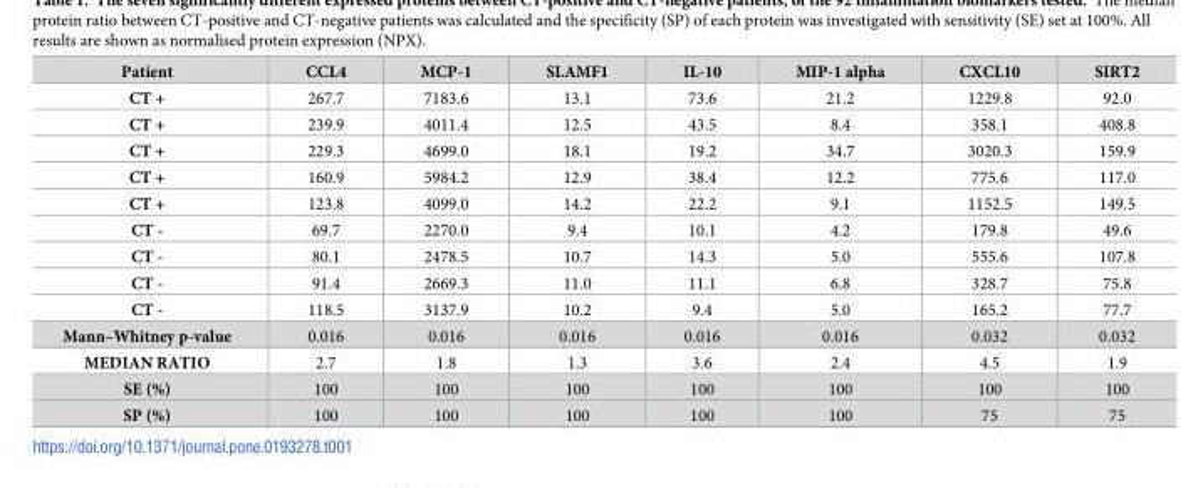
<table><thead><tr><td>Patient</td><td>CCL4</td><td>MCP-1</td><td>SLAMF1</td><td>IL-10</td><td>MIP-1 alpha</td><td>CXCL10</td><td>SIRT2</td></tr></thead><tbody><tr><td>CT +</td><td>267.7</td><td>7183.6</td><td>13.1</td><td>73.6</td><td>21.2</td><td>1229.8</td><td>92.0</td></tr><tr><td>CT +</td><td>239.9</td><td>4011.4</td><td>12.5</td><td>43.5</td><td>8.4</td><td>358.1</td><td>408.8</td></tr><tr><td>CT +</td><td>229.3</td><td>4699.0</td><td>18.1</td><td>19.2</td><td>34.7</td><td>3020.3</td><td>159.9</td></tr><tr><td>CT +</td><td>160.9</td><td>5984.2</td><td>12.9</td><td>38.4</td><td>12.2</td><td>775.6</td><td>117.0</td></tr><tr><td>CT +</td><td>123.8</td><td>4099.0</td><td>14.2</td><td>22.2</td><td>9.1</td><td>1152.5</td><td>149.5</td></tr><tr><td>CT -</td><td>69.7</td><td>2270.0</td><td>9.4</td><td>10.1</td><td>4.2</td><td>179.8</td><td>49.6</td></tr><tr><td>CT -</td><td>80.1</td><td>2478.5</td><td>10.7</td><td>14.3</td><td>5.0</td><td>555.6</td><td>107.8</td></tr><tr><td>CT -</td><td>91.4</td><td>2669.3</td><td>11.0</td><td>11.1</td><td>6.8</td><td>328.7</td><td>75.8</td></tr><tr><td>CT -</td><td>118.5</td><td>3137.9</td><td>10.2</td><td>9.4</td><td>5.0</td><td>165.2</td><td>77.7</td></tr><tr><td>Mann–Whitney p-value</td><td>0.016</td><td>0.016</td><td>0.016</td><td>0.016</td><td>0.016</td><td>0.032</td><td>0.032</td></tr><tr><td>MEDIAN RATIO</td><td>2.7</td><td>1.8</td><td>1.3</td><td>3.6</td><td>2.4</td><td>4.5</td><td>1.9</td></tr><tr><td>SE (%)</td><td>100</td><td>100</td><td>100</td><td>100</td><td>100</td><td>100</td><td>100</td></tr><tr><td>SP (%)</td><td>100</td><td>100</td><td>100</td><td>100</td><td>100</td><td>75</td><td>75</td></tr></tbody></table>